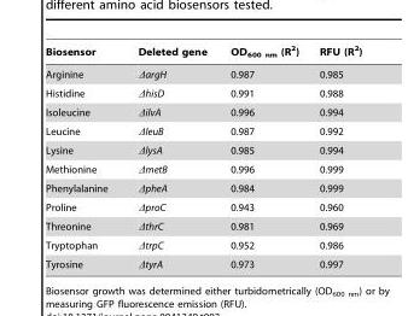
<table><thead><tr><td>Biosensor</td><td>Deleted gene</td><td>OD<sub>600 nm</sub> (R<sup>2</sup>)</td><td>RFU (R<sup>2</sup>)</td></tr></thead><tbody><tr><td>Arginine</td><td>ΔargH</td><td>0.987</td><td>0.985</td></tr><tr><td>Histidine</td><td>ΔhisD</td><td>0.991</td><td>0.988</td></tr><tr><td>Isoleucine</td><td>ΔilvA</td><td>0.996</td><td>0.994</td></tr><tr><td>Leucine</td><td>ΔleuB</td><td>0.987</td><td>0.992</td></tr><tr><td>Lysine</td><td>ΔlysA</td><td>0.985</td><td>0.994</td></tr><tr><td>Methionine</td><td>ΔmetB</td><td>0.996</td><td>0.999</td></tr><tr><td>Phenylalanine</td><td>ΔpheA</td><td>0.984</td><td>0.999</td></tr><tr><td>Proline</td><td>ΔproC</td><td>0.943</td><td>0.960</td></tr><tr><td>Threonine</td><td>ΔthrC</td><td>0.981</td><td>0.969</td></tr><tr><td>Tryptophan</td><td>ΔtrpC</td><td>0.952</td><td>0.986</td></tr><tr><td>Tyrosine</td><td>ΔtyrA</td><td>0.973</td><td>0.997</td></tr></tbody></table>